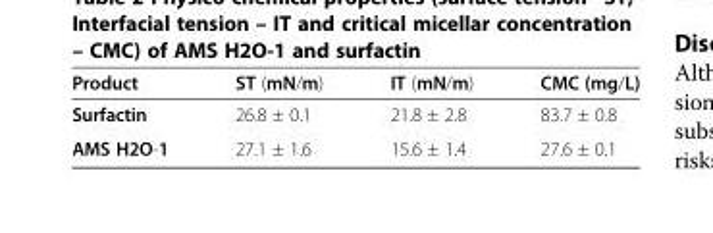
<table><thead><tr><td>Product</td><td>ST (mN/m)</td><td>IT (mN/m)</td><td>CMC (mg/L)</td></tr></thead><tbody><tr><td>Surfactin</td><td>26.8 ± 0.1</td><td>21.8 ± 2.8</td><td>83.7 ± 0.8</td></tr><tr><td>AMS H2O-1</td><td>27.1 ± 1.6</td><td>15.6 ± 1.4</td><td>27.6 ± 0.1</td></tr></tbody></table>